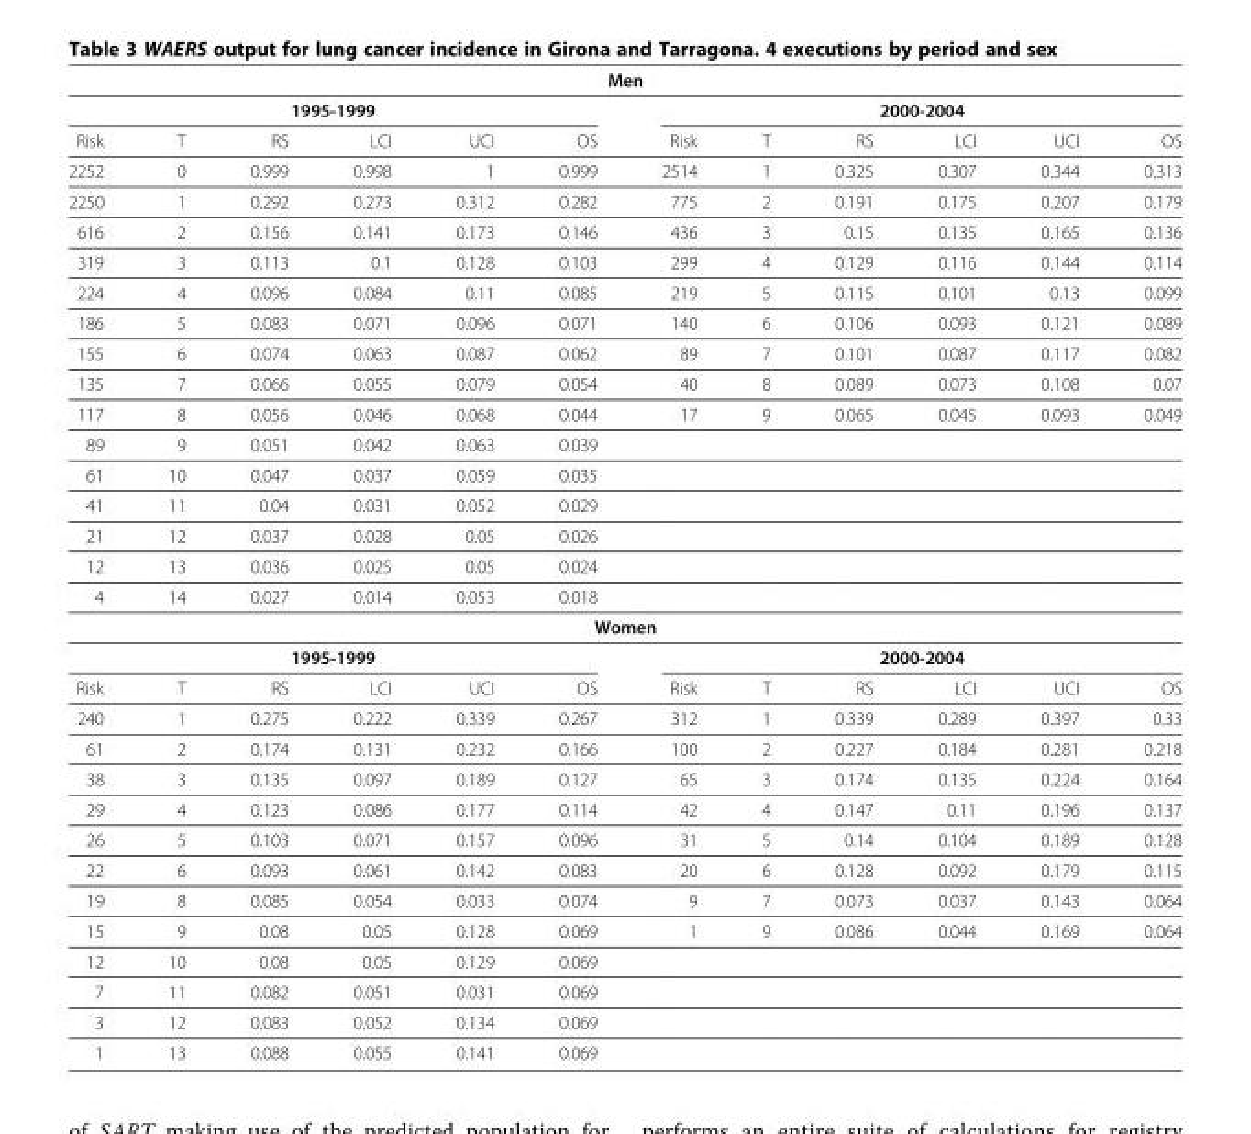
<table><thead><tr><td colspan="12">Men</td></tr><tr><td colspan="6">1995-1999</td><td colspan="6">2000-2004</td></tr><tr><td>Risk</td><td>T</td><td>RS</td><td>LCI</td><td>UCI</td><td>OS</td><td>Risk</td><td>T</td><td>RS</td><td>LCI</td><td>UCI</td><td>OS</td></tr></thead><tbody><tr><td>2252</td><td>0</td><td>0.999</td><td>0.998</td><td>1</td><td>0.999</td><td>2514</td><td>1</td><td>0.325</td><td>0.307</td><td>0.344</td><td>0.313</td></tr><tr><td>2250</td><td>1</td><td>0.292</td><td>0.273</td><td>0.312</td><td>0.282</td><td>775</td><td>2</td><td>0.191</td><td>0.175</td><td>0.207</td><td>0.179</td></tr><tr><td>616</td><td>2</td><td>0.156</td><td>0.141</td><td>0.173</td><td>0.146</td><td>436</td><td>3</td><td>0.15</td><td>0.135</td><td>0.165</td><td>0.136</td></tr><tr><td>319</td><td>3</td><td>0.113</td><td>0.1</td><td>0.128</td><td>0.103</td><td>299</td><td>4</td><td>0.129</td><td>0.116</td><td>0.144</td><td>0.114</td></tr><tr><td>224</td><td>4</td><td>0.096</td><td>0.084</td><td>0.11</td><td>0.085</td><td>219</td><td>5</td><td>0.115</td><td>0.101</td><td>0.13</td><td>0.099</td></tr><tr><td>186</td><td>5</td><td>0.083</td><td>0.071</td><td>0.096</td><td>0.071</td><td>140</td><td>6</td><td>0.106</td><td>0.093</td><td>0.121</td><td>0.089</td></tr><tr><td>155</td><td>6</td><td>0.074</td><td>0.063</td><td>0.087</td><td>0.062</td><td>89</td><td>7</td><td>0.101</td><td>0.087</td><td>0.117</td><td>0.082</td></tr><tr><td>135</td><td>7</td><td>0.066</td><td>0.055</td><td>0.079</td><td>0.054</td><td>40</td><td>8</td><td>0.089</td><td>0.073</td><td>0.108</td><td>0.07</td></tr><tr><td>117</td><td>8</td><td>0.056</td><td>0.046</td><td>0.068</td><td>0.044</td><td>17</td><td>9</td><td>0.065</td><td>0.045</td><td>0.093</td><td>0.049</td></tr><tr><td>89</td><td>9</td><td>0.051</td><td>0.042</td><td>0.063</td><td>0.039</td><td></td><td></td><td></td><td></td><td></td><td></td></tr><tr><td>61</td><td>10</td><td>0.047</td><td>0.037</td><td>0.059</td><td>0.035</td><td></td><td></td><td></td><td></td><td></td><td></td></tr><tr><td>41</td><td>11</td><td>0.04</td><td>0.031</td><td>0.052</td><td>0.029</td><td></td><td></td><td></td><td></td><td></td><td></td></tr><tr><td>21</td><td>12</td><td>0.037</td><td>0.028</td><td>0.05</td><td>0.026</td><td></td><td></td><td></td><td></td><td></td><td></td></tr><tr><td>12</td><td>13</td><td>0.036</td><td>0.025</td><td>0.05</td><td>0.024</td><td></td><td></td><td></td><td></td><td></td><td></td></tr><tr><td>4</td><td>14</td><td>0.027</td><td>0.014</td><td>0.053</td><td>0.018</td><td></td><td></td><td></td><td></td><td></td><td></td></tr><tr><td colspan="12">Women</td></tr><tr><td colspan="6">1995-1999</td><td colspan="6">2000-2004</td></tr><tr><td>Risk</td><td>T</td><td>RS</td><td>LCI</td><td>UCI</td><td>OS</td><td>Risk</td><td>T</td><td>RS</td><td>LCI</td><td>UCI</td><td>OS</td></tr><tr><td>240</td><td>1</td><td>0.275</td><td>0.222</td><td>0.339</td><td>0.267</td><td>312</td><td>1</td><td>0.339</td><td>0.289</td><td>0.397</td><td>0.33</td></tr><tr><td>61</td><td>2</td><td>0.174</td><td>0.131</td><td>0.232</td><td>0.166</td><td>100</td><td>2</td><td>0.227</td><td>0.184</td><td>0.281</td><td>0.218</td></tr><tr><td>38</td><td>3</td><td>0.135</td><td>0.097</td><td>0.189</td><td>0.127</td><td>65</td><td>3</td><td>0.174</td><td>0.135</td><td>0.224</td><td>0.164</td></tr><tr><td>29</td><td>4</td><td>0.123</td><td>0.086</td><td>0.177</td><td>0.114</td><td>42</td><td>4</td><td>0.147</td><td>0.11</td><td>0.196</td><td>0.137</td></tr><tr><td>26</td><td>5</td><td>0.103</td><td>0.071</td><td>0.157</td><td>0.096</td><td>31</td><td>5</td><td>0.14</td><td>0.104</td><td>0.189</td><td>0.128</td></tr><tr><td>22</td><td>6</td><td>0.093</td><td>0.061</td><td>0.142</td><td>0.083</td><td>20</td><td>6</td><td>0.128</td><td>0.092</td><td>0.179</td><td>0.115</td></tr><tr><td>19</td><td>8</td><td>0.085</td><td>0.054</td><td>0.033</td><td>0.074</td><td>9</td><td>7</td><td>0.073</td><td>0.037</td><td>0.143</td><td>0.064</td></tr><tr><td>15</td><td>9</td><td>0.08</td><td>0.05</td><td>0.128</td><td>0.069</td><td>1</td><td>9</td><td>0.086</td><td>0.044</td><td>0.169</td><td>0.064</td></tr><tr><td>12</td><td>10</td><td>0.08</td><td>0.05</td><td>0.129</td><td>0.069</td><td></td><td></td><td></td><td></td><td></td><td></td></tr><tr><td>7</td><td>11</td><td>0.082</td><td>0.051</td><td>0.031</td><td>0.069</td><td></td><td></td><td></td><td></td><td></td><td></td></tr><tr><td>3</td><td>12</td><td>0.083</td><td>0.052</td><td>0.134</td><td>0.069</td><td></td><td></td><td></td><td></td><td></td><td></td></tr><tr><td>1</td><td>13</td><td>0.088</td><td>0.055</td><td>0.141</td><td>0.069</td><td></td><td></td><td></td><td></td><td></td><td></td></tr></tbody></table>